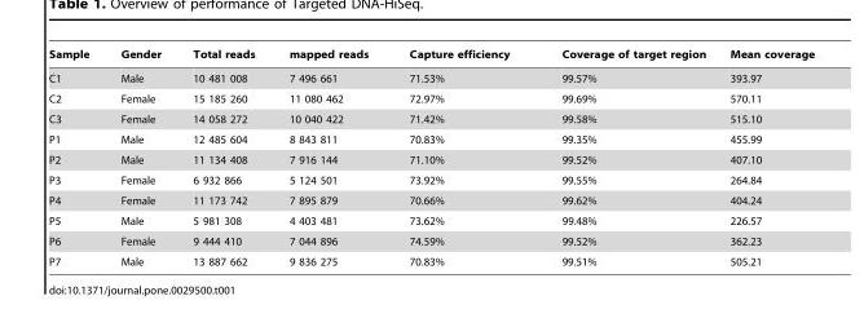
<table><thead><tr><td>Sample</td><td>Gender</td><td>Total reads</td><td>mapped reads</td><td>Capture efficiency</td><td>Coverage of target region</td><td>Mean coverage</td></tr></thead><tbody><tr><td>C1</td><td>Male</td><td>10 481 008</td><td>7 496 661</td><td>71.53%</td><td>99.57%</td><td>393.97</td></tr><tr><td>C2</td><td>Female</td><td>15 185 260</td><td>11 080 462</td><td>72.97%</td><td>99.69%</td><td>570.11</td></tr><tr><td>C3</td><td>Female</td><td>14 058 272</td><td>10 040 422</td><td>71.42%</td><td>99.58%</td><td>515.10</td></tr><tr><td>P1</td><td>Male</td><td>12 485 604</td><td>8 843 811</td><td>70.83%</td><td>99.35%</td><td>455.99</td></tr><tr><td>P2</td><td>Male</td><td>11 134 408</td><td>7 916 144</td><td>71.10%</td><td>99.52%</td><td>407.10</td></tr><tr><td>P3</td><td>Female</td><td>6 932 866</td><td>5 124 501</td><td>73.92%</td><td>99.55%</td><td>264.84</td></tr><tr><td>P4</td><td>Female</td><td>11 173 742</td><td>7 895 879</td><td>70.66%</td><td>99.62%</td><td>404.24</td></tr><tr><td>P5</td><td>Male</td><td>5 981 308</td><td>4 403 481</td><td>73.62%</td><td>99.48%</td><td>226.57</td></tr><tr><td>P6</td><td>Female</td><td>9 444 410</td><td>7 044 896</td><td>74.59%</td><td>99.52%</td><td>362.23</td></tr><tr><td>P7</td><td>Male</td><td>13 887 662</td><td>9 836 275</td><td>70.83%</td><td>99.51%</td><td>505.21</td></tr></tbody></table>